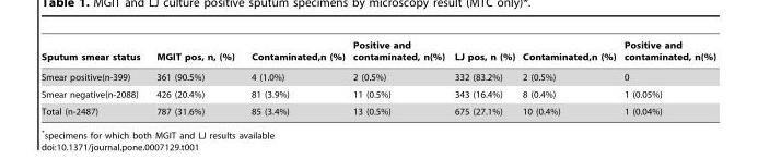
<table><thead><tr><td>Sputum smear status</td><td>MGIT pos, n, (%)</td><td>Contaminated,n (%)</td><td>Positive and contaminated, n(%)</td><td>LJ pos, n (%)</td><td>Contaminated,n (%)</td><td>Positive and contaminated, n(%)</td></tr></thead><tbody><tr><td>Smear positive(n-399)</td><td>361 (90.5%)</td><td>4 (1.0%)</td><td>2 (0.5%)</td><td>332 (83.2%)</td><td>2 (0.5%)</td><td>0</td></tr><tr><td>Smear negative(n-2088)</td><td>426 (20.4%)</td><td>81 (3.9%)</td><td>11 (0.5%)</td><td>343 (16.4%)</td><td>8 (0.4%)</td><td>1 (0.05%)</td></tr><tr><td>Total (n-2487)</td><td>787 (31.6%)</td><td>85 (3.4%)</td><td>13 (0.5%)</td><td>675 (27.1%)</td><td>10 (0.4%)</td><td>1 (0.04%)</td></tr></tbody></table>